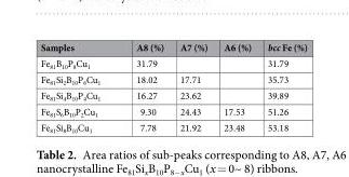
<table><thead><tr><td>Samples</td><td>A8 (%)</td><td>A7 (%)</td><td>A6 (%)</td><td>bcc Fe (%)</td></tr></thead><tbody><tr><td>Fe<sub>81</sub>B<sub>10</sub>P<sub>8</sub>Cu<sub>1</sub></td><td>31.79</td><td></td><td></td><td>31.79</td></tr><tr><td>Fe<sub>81</sub>Si<sub>2</sub>B<sub>10</sub>P<sub>6</sub>Cu<sub>1</sub></td><td>18.02</td><td>17.71</td><td></td><td>35.73</td></tr><tr><td>Fe<sub>81</sub>Si<sub>4</sub>B<sub>10</sub>P<sub>4</sub>Cu<sub>1</sub></td><td>16.27</td><td>23.62</td><td></td><td>39.89</td></tr><tr><td>Fe<sub>81</sub>S<sub>6</sub>B<sub>10</sub>P<sub>2</sub>Cu<sub>1</sub></td><td>9.30</td><td>24.43</td><td>17.53</td><td>51.26</td></tr><tr><td>Fe<sub>81</sub>Si<sub>8</sub>B<sub>10</sub>Cu<sub>1</sub></td><td>7.78</td><td>21.92</td><td>23.48</td><td>53.18</td></tr></tbody></table>